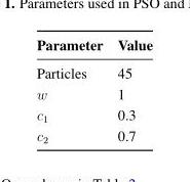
<table><thead><tr><td>Parameter</td><td>Value</td></tr></thead><tbody><tr><td>Particles</td><td>45</td></tr><tr><td>w</td><td>1</td></tr><tr><td>c<sub>1</sub></td><td>0.3</td></tr><tr><td>c<sub>2</sub></td><td>0.7</td></tr></tbody></table>